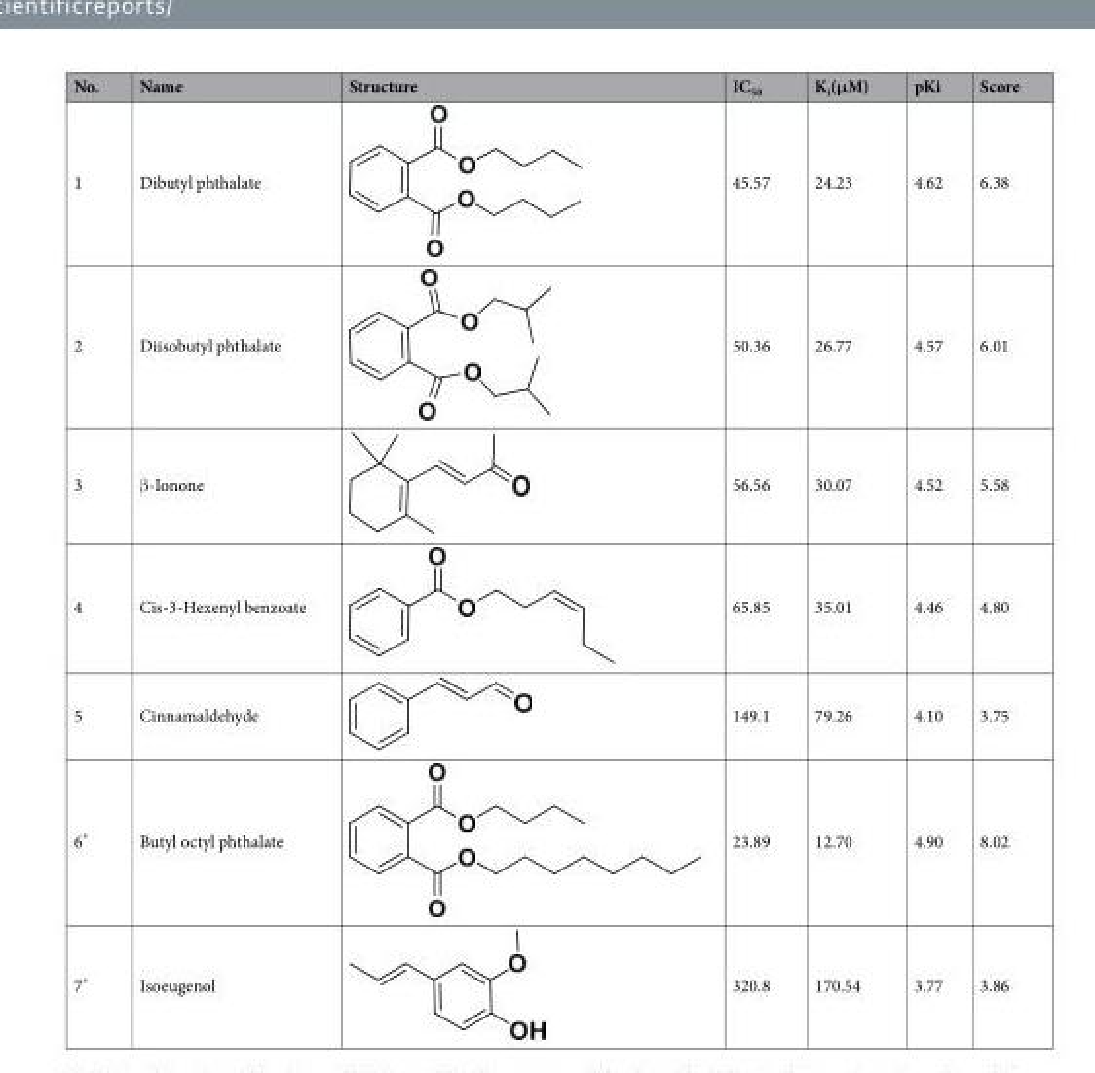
<table><thead><tr><td>No.</td><td>Name</td><td>Structure</td><td>IC<sub>50</sub></td><td>K<sub>i</sub>(μM)</td><td>pKi</td><td>Score</td></tr></thead><tbody><tr><td>1</td><td>Dibutyl phthalate</td><td></td><td>45.57</td><td>24.23</td><td>4.62</td><td>6.38</td></tr><tr><td>2</td><td>Diisobutyl phthalate</td><td></td><td>50.36</td><td>26.77</td><td>4.57</td><td>6.01</td></tr><tr><td>3</td><td>β-Ionone</td><td></td><td>56.56</td><td>30.07</td><td>4.52</td><td>5.58</td></tr><tr><td>4</td><td>Cis-3-Hexenyl benzoate</td><td></td><td>65.85</td><td>35.01</td><td>4.46</td><td>4.80</td></tr><tr><td>5</td><td>Cinnamaldehyde</td><td></td><td>149.1</td><td>79.26</td><td>4.10</td><td>3.75</td></tr><tr><td>6*</td><td>Butyl octyl phthalate</td><td></td><td>23.89</td><td>12.70</td><td>4.90</td><td>8.02</td></tr><tr><td>7*</td><td>Isoeugenol</td><td></td><td>320.8</td><td>170.54</td><td>3.77</td><td>3.86</td></tr></tbody></table>